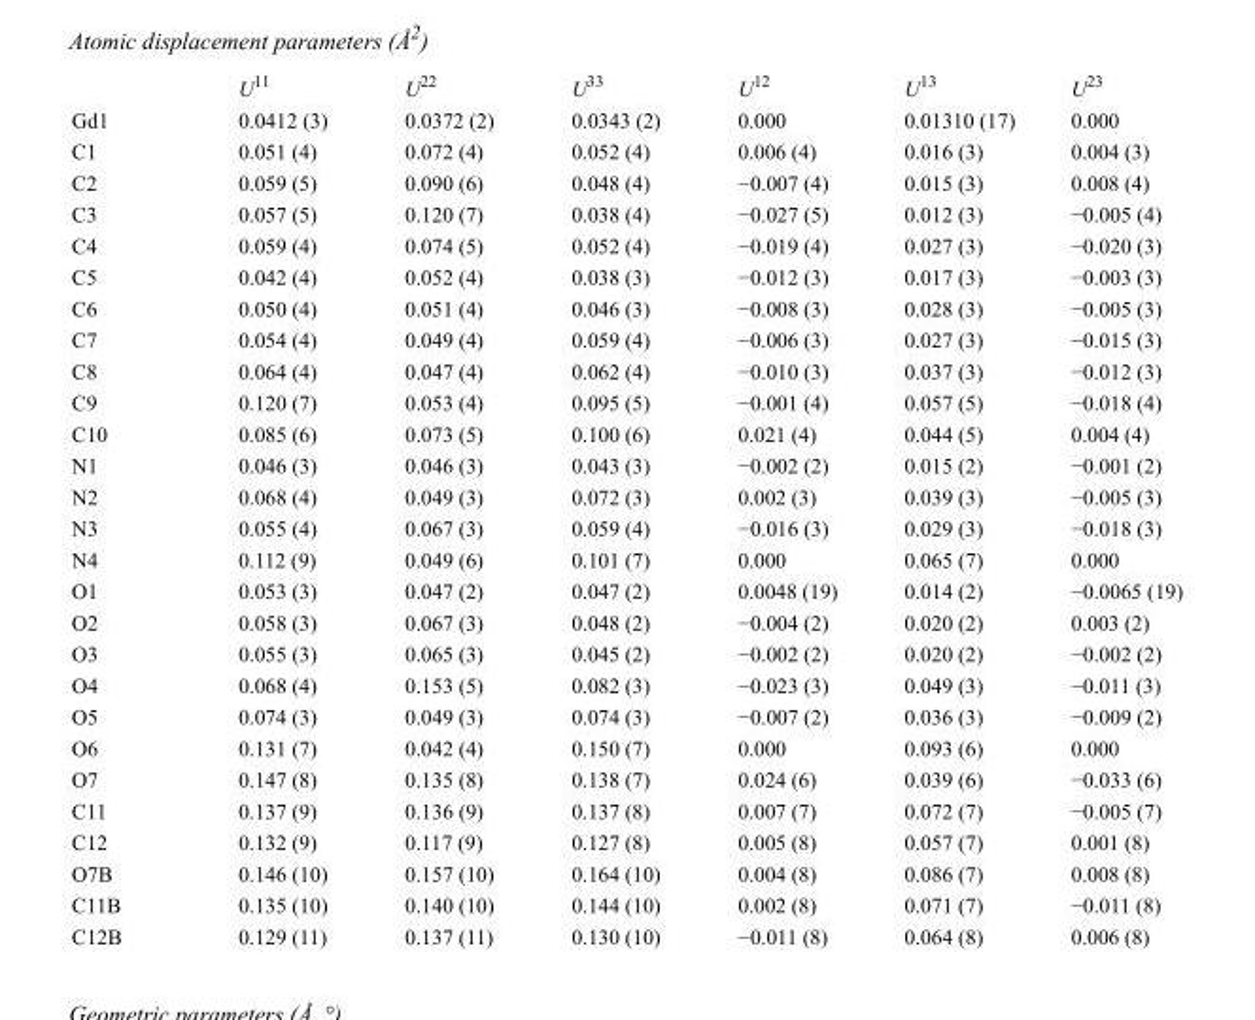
<table><thead><tr><td></td><td>U<sup>11</sup></td><td>U<sup>22</sup></td><td>U<sup>33</sup></td><td>U<sup>12</sup></td><td>U<sup>13</sup></td><td>U<sup>23</sup></td></tr></thead><tbody><tr><td>Gd1</td><td>0.0412 (3)</td><td>0.0372 (2)</td><td>0.0343 (2)</td><td>0.000</td><td>0.01310 (17)</td><td>0.000</td></tr><tr><td>C1</td><td>0.051 (4)</td><td>0.072 (4)</td><td>0.052 (4)</td><td>0.006 (4)</td><td>0.016 (3)</td><td>0.004 (3)</td></tr><tr><td>C2</td><td>0.059 (5)</td><td>0.090 (6)</td><td>0.048 (4)</td><td>−0.007 (4)</td><td>0.015 (3)</td><td>0.008 (4)</td></tr><tr><td>C3</td><td>0.057 (5)</td><td>0.120 (7)</td><td>0.038 (4)</td><td>−0.027 (5)</td><td>0.012 (3)</td><td>−0.005 (4)</td></tr><tr><td>C4</td><td>0.059 (4)</td><td>0.074 (5)</td><td>0.052 (4)</td><td>−0.019 (4)</td><td>0.027 (3)</td><td>−0.020 (3)</td></tr><tr><td>C5</td><td>0.042 (4)</td><td>0.052 (4)</td><td>0.038 (3)</td><td>−0.012 (3)</td><td>0.017 (3)</td><td>−0.003 (3)</td></tr><tr><td>C6</td><td>0.050 (4)</td><td>0.051 (4)</td><td>0.046 (3)</td><td>−0.008 (3)</td><td>0.028 (3)</td><td>−0.005 (3)</td></tr><tr><td>C7</td><td>0.054 (4)</td><td>0.049 (4)</td><td>0.059 (4)</td><td>−0.006 (3)</td><td>0.027 (3)</td><td>−0.015 (3)</td></tr><tr><td>C8</td><td>0.064 (4)</td><td>0.047 (4)</td><td>0.062 (4)</td><td>−0.010 (3)</td><td>0.037 (3)</td><td>−0.012 (3)</td></tr><tr><td>C9</td><td>0.120 (7)</td><td>0.053 (4)</td><td>0.095 (5)</td><td>−0.001 (4)</td><td>0.057 (5)</td><td>−0.018 (4)</td></tr><tr><td>C10</td><td>0.085 (6)</td><td>0.073 (5)</td><td>0.100 (6)</td><td>0.021 (4)</td><td>0.044 (5)</td><td>0.004 (4)</td></tr><tr><td>N1</td><td>0.046 (3)</td><td>0.046 (3)</td><td>0.043 (3)</td><td>−0.002 (2)</td><td>0.015 (2)</td><td>−0.001 (2)</td></tr><tr><td>N2</td><td>0.068 (4)</td><td>0.049 (3)</td><td>0.072 (3)</td><td>0.002 (3)</td><td>0.039 (3)</td><td>−0.005 (3)</td></tr><tr><td>N3</td><td>0.055 (4)</td><td>0.067 (3)</td><td>0.059 (4)</td><td>−0.016 (3)</td><td>0.029 (3)</td><td>−0.018 (3)</td></tr><tr><td>N4</td><td>0.112 (9)</td><td>0.049 (6)</td><td>0.101 (7)</td><td>0.000</td><td>0.065 (7)</td><td>0.000</td></tr><tr><td>O1</td><td>0.053 (3)</td><td>0.047 (2)</td><td>0.047 (2)</td><td>0.0048 (19)</td><td>0.014 (2)</td><td>−0.0065 (19)</td></tr><tr><td>O2</td><td>0.058 (3)</td><td>0.067 (3)</td><td>0.048 (2)</td><td>−0.004 (2)</td><td>0.020 (2)</td><td>0.003 (2)</td></tr><tr><td>O3</td><td>0.055 (3)</td><td>0.065 (3)</td><td>0.045 (2)</td><td>−0.002 (2)</td><td>0.020 (2)</td><td>−0.002 (2)</td></tr><tr><td>O4</td><td>0.068 (4)</td><td>0.153 (5)</td><td>0.082 (3)</td><td>−0.023 (3)</td><td>0.049 (3)</td><td>−0.011 (3)</td></tr><tr><td>O5</td><td>0.074 (3)</td><td>0.049 (3)</td><td>0.074 (3)</td><td>−0.007 (2)</td><td>0.036 (3)</td><td>−0.009 (2)</td></tr><tr><td>O6</td><td>0.131 (7)</td><td>0.042 (4)</td><td>0.150 (7)</td><td>0.000</td><td>0.093 (6)</td><td>0.000</td></tr><tr><td>O7</td><td>0.147 (8)</td><td>0.135 (8)</td><td>0.138 (7)</td><td>0.024 (6)</td><td>0.039 (6)</td><td>−0.033 (6)</td></tr><tr><td>C11</td><td>0.137 (9)</td><td>0.136 (9)</td><td>0.137 (8)</td><td>0.007 (7)</td><td>0.072 (7)</td><td>−0.005 (7)</td></tr><tr><td>C12</td><td>0.132 (9)</td><td>0.117 (9)</td><td>0.127 (8)</td><td>0.005 (8)</td><td>0.057 (7)</td><td>0.001 (8)</td></tr><tr><td>O7B</td><td>0.146 (10)</td><td>0.157 (10)</td><td>0.164 (10)</td><td>0.004 (8)</td><td>0.086 (7)</td><td>0.008 (8)</td></tr><tr><td>C11B</td><td>0.135 (10)</td><td>0.140 (10)</td><td>0.144 (10)</td><td>0.002 (8)</td><td>0.071 (7)</td><td>−0.011 (8)</td></tr><tr><td>C12B</td><td>0.129 (11)</td><td>0.137 (11)</td><td>0.130 (10)</td><td>−0.011 (8)</td><td>0.064 (8)</td><td>0.006 (8)</td></tr></tbody></table>